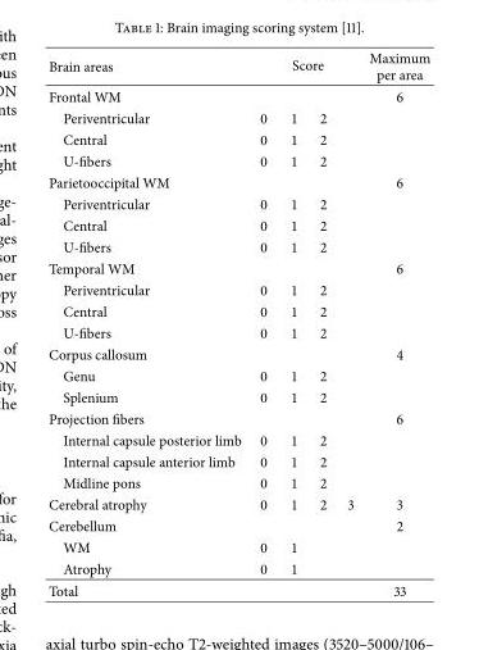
<table><thead><tr><td rowspan="2">Brain areas Frontal WM</td><td colspan="4">Score</td><td rowspan="2">Maximum per area 6</td></tr><tr><td></td><td></td><td></td><td></td></tr></thead><tbody><tr><td>Periventricular</td><td>0</td><td>1</td><td>2</td><td></td><td></td></tr><tr><td>Central</td><td>0</td><td>1</td><td>2</td><td></td><td></td></tr><tr><td>U-fibers</td><td>0</td><td>1</td><td>2</td><td></td><td></td></tr><tr><td>Parietooccipital WM</td><td></td><td></td><td></td><td></td><td>6</td></tr><tr><td>Periventricular</td><td>0</td><td>1</td><td>2</td><td></td><td></td></tr><tr><td>Central</td><td>0</td><td>1</td><td>2</td><td></td><td></td></tr><tr><td>U-fibers</td><td>0</td><td>1</td><td>2</td><td></td><td></td></tr><tr><td>Temporal WM</td><td></td><td></td><td></td><td></td><td>6</td></tr><tr><td>Periventricular</td><td>0</td><td>1</td><td>2</td><td></td><td></td></tr><tr><td>Central</td><td>0</td><td>1</td><td>2</td><td></td><td></td></tr><tr><td>U-fibers</td><td>0</td><td>1</td><td>2</td><td></td><td></td></tr><tr><td>Corpus callosum</td><td></td><td></td><td></td><td></td><td>4</td></tr><tr><td>Genu</td><td>0</td><td>1</td><td>2</td><td></td><td></td></tr><tr><td>Splenium</td><td>0</td><td>1</td><td>2</td><td></td><td></td></tr><tr><td>Projection fibers</td><td></td><td></td><td></td><td></td><td>6</td></tr><tr><td>Internal capsule posterior limb</td><td>0</td><td>1</td><td>2</td><td></td><td></td></tr><tr><td>Internal capsule anterior limb</td><td>0</td><td>1</td><td>2</td><td></td><td></td></tr><tr><td>Midline pons</td><td>0</td><td>1</td><td>2</td><td></td><td></td></tr><tr><td>Cerebral atrophy</td><td>0</td><td>1</td><td>2</td><td>3</td><td>3</td></tr><tr><td>Cerebellum</td><td></td><td></td><td></td><td></td><td>2</td></tr><tr><td>WM</td><td>0</td><td>1</td><td></td><td></td><td></td></tr><tr><td>Atrophy</td><td>0</td><td>1</td><td></td><td></td><td></td></tr><tr><td>Total</td><td></td><td></td><td></td><td></td><td>33</td></tr></tbody></table>